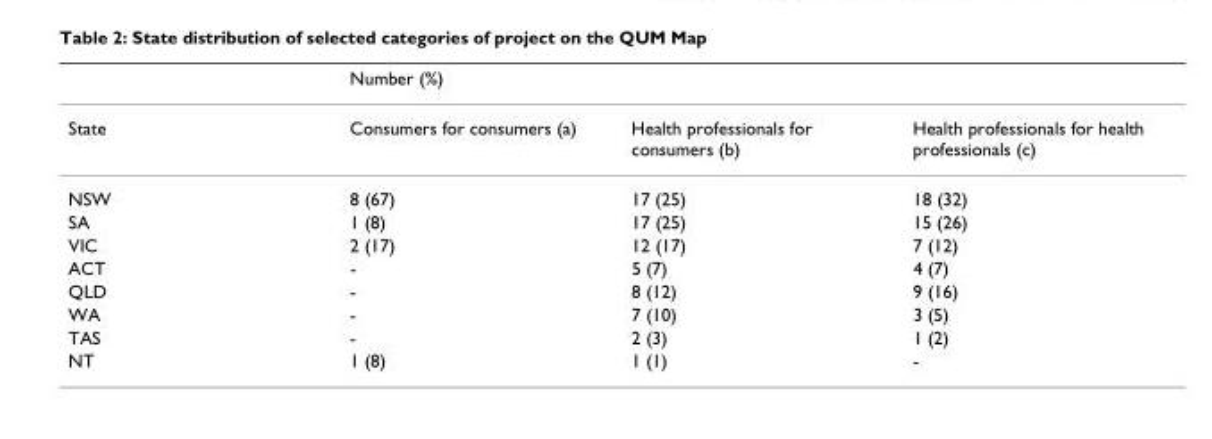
<table><thead><tr><td rowspan="2">State</td><td colspan="3">Number (%)</td></tr><tr><td>Consumers for consumers (a)</td><td>Health professionals for consumers (b)</td><td>Health professionals for health professionals (c)</td></tr></thead><tbody><tr><td>NSW</td><td>8 (67)</td><td>17 (25)</td><td>18 (32)</td></tr><tr><td>SA</td><td>1 (8)</td><td>17 (25)</td><td>15 (26)</td></tr><tr><td>VIC</td><td>2 (17)</td><td>12 (17)</td><td>7 (12)</td></tr><tr><td>ACT</td><td>-</td><td>5 (7)</td><td>4 (7)</td></tr><tr><td>QLD</td><td>-</td><td>8 (12)</td><td>9 (16)</td></tr><tr><td>WA</td><td>-</td><td>7 (10)</td><td>3 (5)</td></tr><tr><td>TAS</td><td>-</td><td>2 (3)</td><td>1 (2)</td></tr><tr><td>NT</td><td>1 (8)</td><td>1 (1)</td><td>-</td></tr></tbody></table>